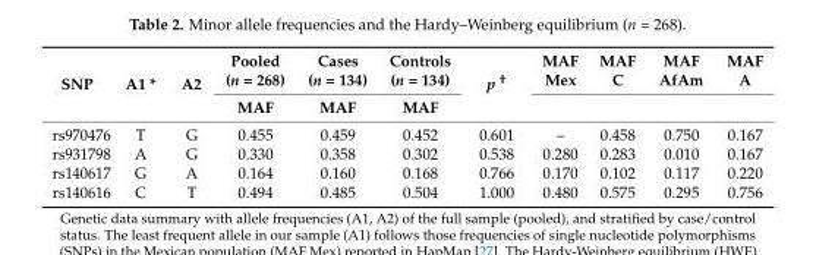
<table><thead><tr><td rowspan="2">SNP</td><td rowspan="2">A1 *</td><td rowspan="2">A2</td><td rowspan="2">Pooled (n = 268) MAF</td><td rowspan="2">Cases (n = 134) MAF</td><td rowspan="2">Controls (n = 134) MAF</td><td rowspan="2">p <sup>†</sup></td><td rowspan="2">MAF Mex</td><td rowspan="2">MAF C</td><td rowspan="2">MAF AfAm</td><td rowspan="2">MAF A</td></tr><tr></tr></thead><tbody><tr><td>rs970476</td><td>T</td><td>G</td><td>0.455</td><td>0.459</td><td>0.452</td><td>0.601</td><td>–</td><td>0.458</td><td>0.750</td><td>0.167</td></tr><tr><td>rs931798</td><td>A</td><td>G</td><td>0.330</td><td>0.358</td><td>0.302</td><td>0.538</td><td>0.280</td><td>0.283</td><td>0.010</td><td>0.167</td></tr><tr><td>rs140617</td><td>G</td><td>A</td><td>0.164</td><td>0.160</td><td>0.168</td><td>0.766</td><td>0.170</td><td>0.102</td><td>0.117</td><td>0.220</td></tr><tr><td>rs140616</td><td>C</td><td>T</td><td>0.494</td><td>0.485</td><td>0.504</td><td>1.000</td><td>0.480</td><td>0.575</td><td>0.295</td><td>0.756</td></tr></tbody></table>